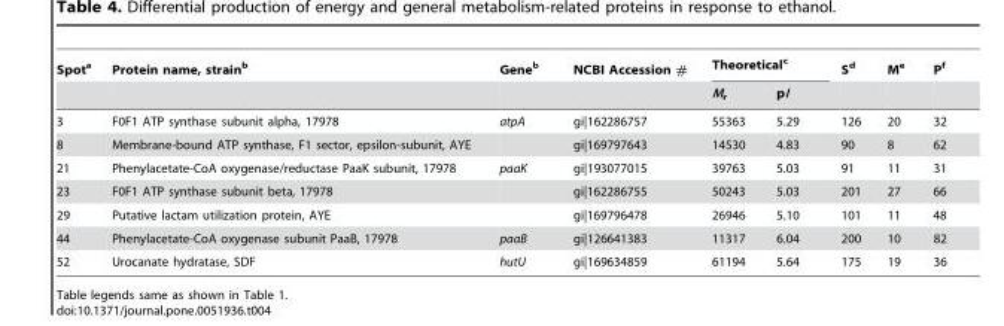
<table><thead><tr><td rowspan="2">Spot<sup>a</sup></td><td rowspan="2">Protein name, strain<sup>b</sup></td><td rowspan="2">Gene<sup>b</sup></td><td rowspan="2">NCBI Accession #</td><td colspan="2">Theoretical<sup>c</sup></td><td rowspan="2">S<sup>d</sup></td><td rowspan="2">M<sup>e</sup></td><td rowspan="2">P<sup>f</sup></td></tr><tr><td>M<sub>r</sub></td><td>pI</td></tr></thead><tbody><tr><td>3</td><td>F0F1 ATP synthase subunit alpha, 17978</td><td>atpA</td><td>gi|162286757</td><td>55363</td><td>5.29</td><td>126</td><td>20</td><td>32</td></tr><tr><td>8</td><td>Membrane-bound ATP synthase, F1 sector, epsilon-subunit, AYE</td><td></td><td>gi|169797643</td><td>14530</td><td>4.83</td><td>90</td><td>8</td><td>62</td></tr><tr><td>21</td><td>Phenylacetate-CoA oxygenase/reductase PaaK subunit, 17978</td><td>paaK</td><td>gi|193077015</td><td>39763</td><td>5.03</td><td>91</td><td>11</td><td>31</td></tr><tr><td>23</td><td>F0F1 ATP synthase subunit beta, 17978</td><td></td><td>gi|162286755</td><td>50243</td><td>5.03</td><td>201</td><td>27</td><td>66</td></tr><tr><td>29</td><td>Putative lactam utilization protein, AYE</td><td></td><td>gi|169796478</td><td>26946</td><td>5.10</td><td>101</td><td>11</td><td>48</td></tr><tr><td>44</td><td>Phenylacetate-CoA oxygenase subunit PaaB, 17978</td><td>paaB</td><td>gi|126641383</td><td>11317</td><td>6.04</td><td>200</td><td>10</td><td>82</td></tr><tr><td>52</td><td>Urocanate hydratase, SDF</td><td>hutU</td><td>gi|169634859</td><td>61194</td><td>5.64</td><td>175</td><td>19</td><td>36</td></tr></tbody></table>